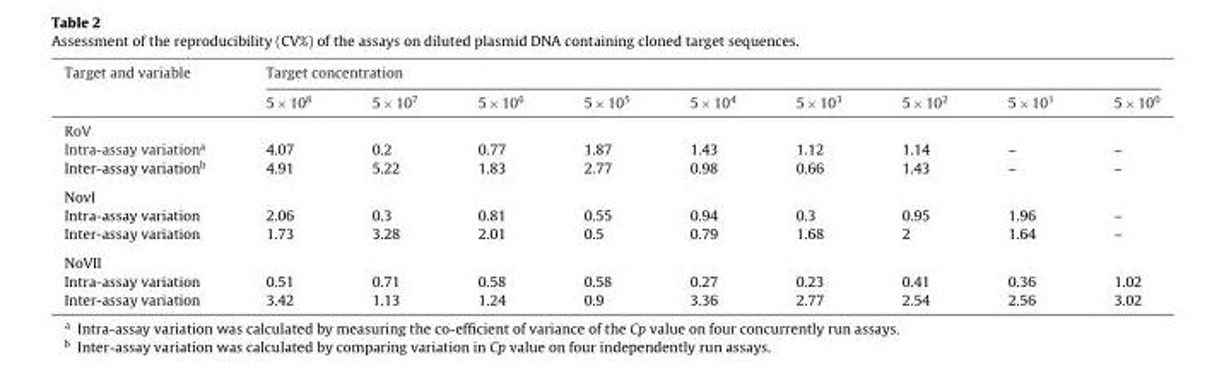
<table><thead><tr><td rowspan="2">Target and variable</td><td colspan="9">Target concentration</td></tr><tr><td>5 × 10<sup>8</sup></td><td>5 × 10<sup>7</sup></td><td>5 × 10<sup>6</sup></td><td>5 × 10<sup>5</sup></td><td>5 × 10<sup>4</sup></td><td>5 × 10<sup>3</sup></td><td>5 × 10<sup>2</sup></td><td>5 × 10<sup>1</sup></td><td>5 × 10<sup>0</sup></td></tr></thead><tbody><tr><td colspan="10">RoV</td></tr><tr><td>Intra-assay variation<sup>a</sup></td><td>4.07</td><td>0.2</td><td>0.77</td><td>1.87</td><td>1.43</td><td>1.12</td><td>1.14</td><td>–</td><td>–</td></tr><tr><td>Inter-assay variation<sup>b</sup></td><td>4.91</td><td>5.22</td><td>1.83</td><td>2.77</td><td>0.98</td><td>0.66</td><td>1.43</td><td>–</td><td>–</td></tr><tr><td colspan="10">NovI</td></tr><tr><td>Intra-assay variation</td><td>2.06</td><td>0.3</td><td>0.81</td><td>0.55</td><td>0.94</td><td>0.3</td><td>0.95</td><td>1.96</td><td>–</td></tr><tr><td>Inter-assay variation</td><td>1.73</td><td>3.28</td><td>2.01</td><td>0.5</td><td>0.79</td><td>1.68</td><td>2</td><td>1.64</td><td>–</td></tr><tr><td colspan="10">NoVII</td></tr><tr><td>Intra-assay variation</td><td>0.51</td><td>0.71</td><td>0.58</td><td>0.58</td><td>0.27</td><td>0.23</td><td>0.41</td><td>0.36</td><td>1.02</td></tr><tr><td>Inter-assay variation</td><td>3.42</td><td>1.13</td><td>1.24</td><td>0.9</td><td>3.36</td><td>2.77</td><td>2.54</td><td>2.56</td><td>3.02</td></tr></tbody></table>